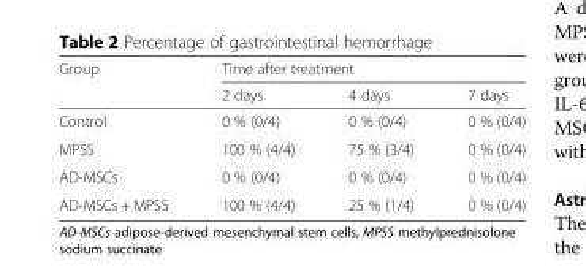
<table><thead><tr><td rowspan="2">Group</td><td colspan="3">Time after treatment</td></tr><tr><td>2 days</td><td>4 days</td><td>7 days</td></tr></thead><tbody><tr><td>Control</td><td>0 % (0/4)</td><td>0 % (0/4)</td><td>0 % (0/4)</td></tr><tr><td>MPSS</td><td>100 % (4/4)</td><td>75 % (3/4)</td><td>0 % (0/4)</td></tr><tr><td>AD-MSCs</td><td>0 % (0/4)</td><td>0 % (0/4)</td><td>0 % (0/4)</td></tr><tr><td>AD-MSCs + MPSS</td><td>100 % (4/4)</td><td>25 % (1/4)</td><td>0 % (0/4)</td></tr></tbody></table>